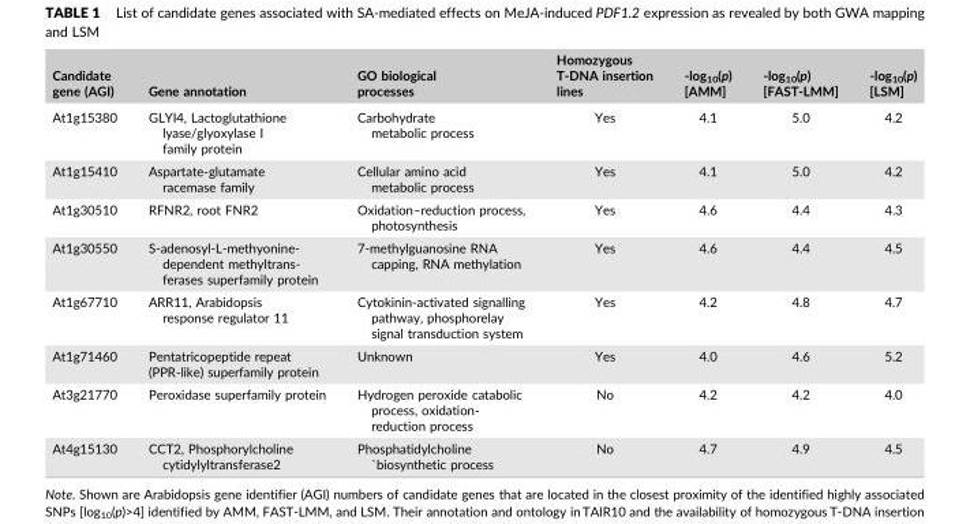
<table><thead><tr><td>Candidate gene (AGI)</td><td>Gene annotation</td><td>GO biological processes</td><td>Homozygous T‐DNA insertion lines</td><td>‐log<sub>10</sub>(p) [AMM]</td><td>‐log<sub>10</sub>(p) [FAST‐LMM]</td><td>‐log<sub>10</sub>(p) [LSM]</td></tr></thead><tbody><tr><td>At1g15380</td><td>GLYI4, Lactoglutathione lyase/glyoxylase I family protein</td><td>Carbohydrate metabolic process</td><td>Yes</td><td>4.1</td><td>5.0</td><td>4.2</td></tr><tr><td>At1g15410</td><td>Aspartate‐glutamate racemase family</td><td>Cellular amino acid metabolic process</td><td>Yes</td><td>4.1</td><td>5.0</td><td>4.2</td></tr><tr><td>At1g30510</td><td>RFNR2, root FNR2</td><td>Oxidation–reduction process, photosynthesis</td><td>Yes</td><td>4.6</td><td>4.4</td><td>4.3</td></tr><tr><td>At1g30550</td><td>S‐adenosyl‐L‐methyonine‐ dependent methyltrans‐ ferases superfamily protein</td><td>7‐methylguanosine RNA capping, RNA methylation</td><td>Yes</td><td>4.6</td><td>4.4</td><td>4.5</td></tr><tr><td>At1g67710</td><td>ARR11, Arabidopsis response regulator 11</td><td>Cytokinin‐activated signalling pathway, phosphorelay signal transduction system</td><td>Yes</td><td>4.2</td><td>4.8</td><td>4.7</td></tr><tr><td>At1g71460</td><td>Pentatricopeptide repeat (PPR‐like) superfamily protein</td><td>Unknown</td><td>Yes</td><td>4.0</td><td>4.6</td><td>5.2</td></tr><tr><td>At3g21770</td><td>Peroxidase superfamily protein</td><td>Hydrogen peroxide catabolic process, oxidation‐ reduction process</td><td>No</td><td>4.2</td><td>4.2</td><td>4.0</td></tr><tr><td>At4g15130</td><td>CCT2, Phosphorylcholine cytidylyltransferase2</td><td>Phosphatidylcholine `biosynthetic process</td><td>No</td><td>4.7</td><td>4.9</td><td>4.5</td></tr></tbody></table>